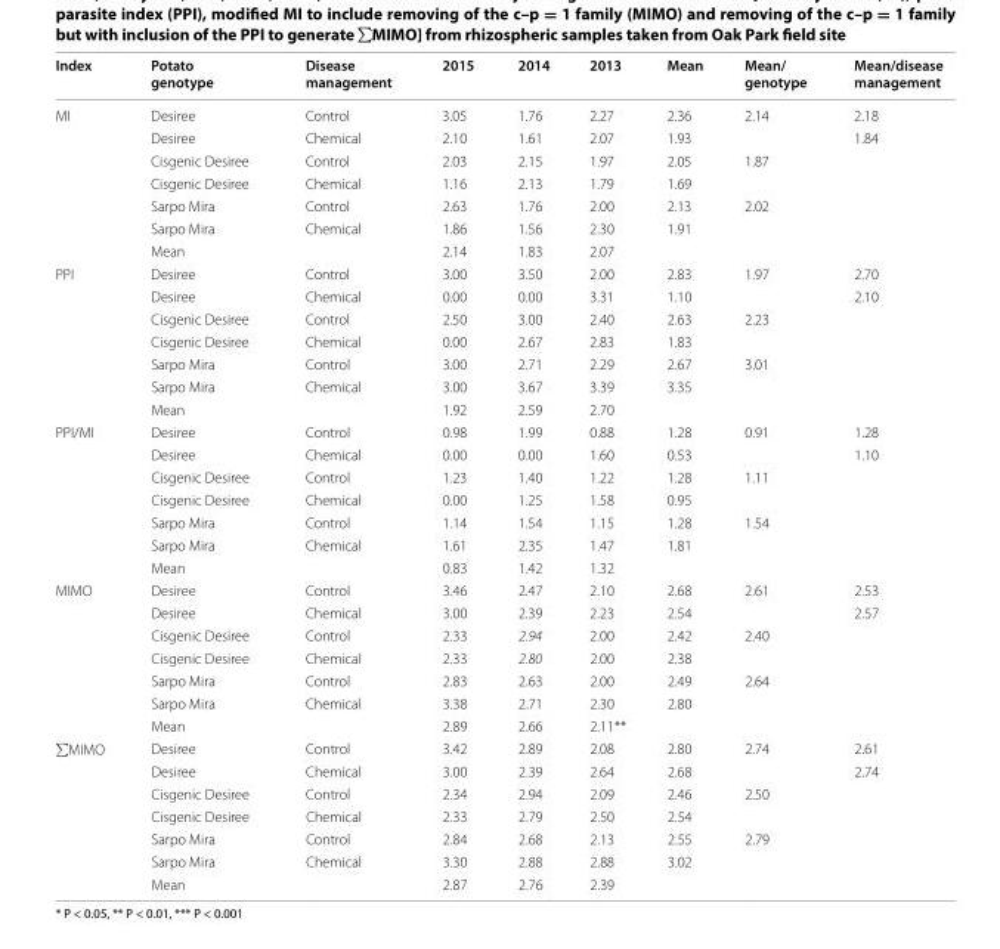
<table><thead><tr><td>Index</td><td>Potato genotype</td><td>Disease management</td><td>2015</td><td>2014</td><td>2013</td><td>Mean</td><td>Mean/ genotype</td><td>Mean/disease management</td></tr></thead><tbody><tr><td rowspan="7">MI</td><td>Desiree</td><td>Control</td><td>3.05</td><td>1.76</td><td>2.27</td><td>2.36</td><td rowspan="2">2.14</td><td>2.18</td></tr><tr><td>Desiree</td><td>Chemical</td><td>2.10</td><td>1.61</td><td>2.07</td><td>1.93</td><td>1.84</td></tr><tr><td>Cisgenic Desiree</td><td>Control</td><td>2.03</td><td>2.15</td><td>1.97</td><td>2.05</td><td rowspan="2">1.87</td><td rowspan="4"></td></tr><tr><td>Cisgenic Desiree</td><td>Chemical</td><td>1.16</td><td>2.13</td><td>1.79</td><td>1.69</td></tr><tr><td>Sarpo Mira</td><td>Control</td><td>2.63</td><td>1.76</td><td>2.00</td><td>2.13</td><td rowspan="2">2.02</td></tr><tr><td>Sarpo Mira</td><td>Chemical</td><td>1.86</td><td>1.56</td><td>2.30</td><td>1.91</td></tr><tr><td colspan="2">Mean</td><td>2.14</td><td>1.83</td><td>2.07</td><td colspan="3"></td></tr><tr><td rowspan="7">PPI</td><td>Desiree</td><td>Control</td><td>3.00</td><td>3.50</td><td>2.00</td><td>2.83</td><td rowspan="2">1.97</td><td>2.70</td></tr><tr><td>Desiree</td><td>Chemical</td><td>0.00</td><td>0.00</td><td>3.31</td><td>1.10</td><td>2.10</td></tr><tr><td>Cisgenic Desiree</td><td>Control</td><td>2.50</td><td>3.00</td><td>2.40</td><td>2.63</td><td rowspan="2">2.23</td><td rowspan="5"></td></tr><tr><td>Cisgenic Desiree</td><td>Chemical</td><td>0.00</td><td>2.67</td><td>2.83</td><td>1.83</td></tr><tr><td>Sarpo Mira</td><td>Control</td><td>3.00</td><td>2.71</td><td>2.29</td><td>2.67</td><td rowspan="2">3.01</td></tr><tr><td>Sarpo Mira</td><td>Chemical</td><td>3.00</td><td>3.67</td><td>3.39</td><td>3.35</td></tr><tr><td colspan="2">Mean</td><td>1.92</td><td>2.59</td><td>2.70</td><td colspan="2"></td></tr><tr><td rowspan="7">PPI/MI</td><td>Desiree</td><td>Control</td><td>0.98</td><td>1.99</td><td>0.88</td><td>1.28</td><td rowspan="2">0.91</td><td>1.28</td></tr><tr><td>Desiree</td><td>Chemical</td><td>0.00</td><td>0.00</td><td>1.60</td><td>0.53</td><td>1.10</td></tr><tr><td>Cisgenic Desiree</td><td>Control</td><td>1.23</td><td>1.40</td><td>1.22</td><td>1.28</td><td rowspan="2">1.11</td><td rowspan="5"></td></tr><tr><td>Cisgenic Desiree</td><td>Chemical</td><td>0.00</td><td>1.25</td><td>1.58</td><td>0.95</td></tr><tr><td>Sarpo Mira</td><td>Control</td><td>1.14</td><td>1.54</td><td>1.15</td><td>1.28</td><td rowspan="2">1.54</td></tr><tr><td>Sarpo Mira</td><td>Chemical</td><td>1.61</td><td>2.35</td><td>1.47</td><td>1.81</td></tr><tr><td colspan="2">Mean</td><td>0.83</td><td>1.42</td><td>1.32</td><td colspan="2"></td></tr><tr><td rowspan="7">MIMO</td><td>Desiree</td><td>Control</td><td>3.46</td><td>2.47</td><td>2.10</td><td>2.68</td><td rowspan="2">2.61</td><td>2.53</td></tr><tr><td>Desiree</td><td>Chemical</td><td>3.00</td><td>2.39</td><td>2.23</td><td>2.54</td><td>2.57</td></tr><tr><td>Cisgenic Desiree</td><td>Control</td><td>2.33</td><td>2.94</td><td>2.00</td><td>2.42</td><td rowspan="2">2.40</td><td rowspan="5"></td></tr><tr><td>Cisgenic Desiree</td><td>Chemical</td><td>2.33</td><td>2.80</td><td>2.00</td><td>2.38</td></tr><tr><td>Sarpo Mira</td><td>Control</td><td>2.83</td><td>2.63</td><td>2.00</td><td>2.49</td><td rowspan="2">2.64</td></tr><tr><td>Sarpo Mira</td><td>Chemical</td><td>3.38</td><td>2.71</td><td>2.30</td><td>2.80</td></tr><tr><td colspan="2">Mean</td><td>2.89</td><td>2.66</td><td>2.11**</td><td colspan="2"></td></tr><tr><td rowspan="7">∑MIMO</td><td>Desiree</td><td>Control</td><td>3.42</td><td>2.89</td><td>2.08</td><td>2.80</td><td rowspan="2">2.74</td><td>2.61</td></tr><tr><td>Desiree</td><td>Chemical</td><td>3.00</td><td>2.39</td><td>2.64</td><td>2.68</td><td>2.74</td></tr><tr><td>Cisgenic Desiree</td><td>Control</td><td>2.34</td><td>2.94</td><td>2.09</td><td>2.46</td><td rowspan="2">2.50</td><td rowspan="5"></td></tr><tr><td>Cisgenic Desiree</td><td>Chemical</td><td>2.33</td><td>2.79</td><td>2.50</td><td>2.54</td></tr><tr><td>Sarpo Mira</td><td>Control</td><td>2.84</td><td>2.68</td><td>2.13</td><td>2.55</td><td rowspan="2">2.79</td></tr><tr><td>Sarpo Mira</td><td>Chemical</td><td>3.30</td><td>2.88</td><td>2.88</td><td>3.02</td></tr><tr><td colspan="2">Mean</td><td>2.87</td><td>2.76</td><td>2.39</td><td colspan="2"></td></tr></tbody></table>